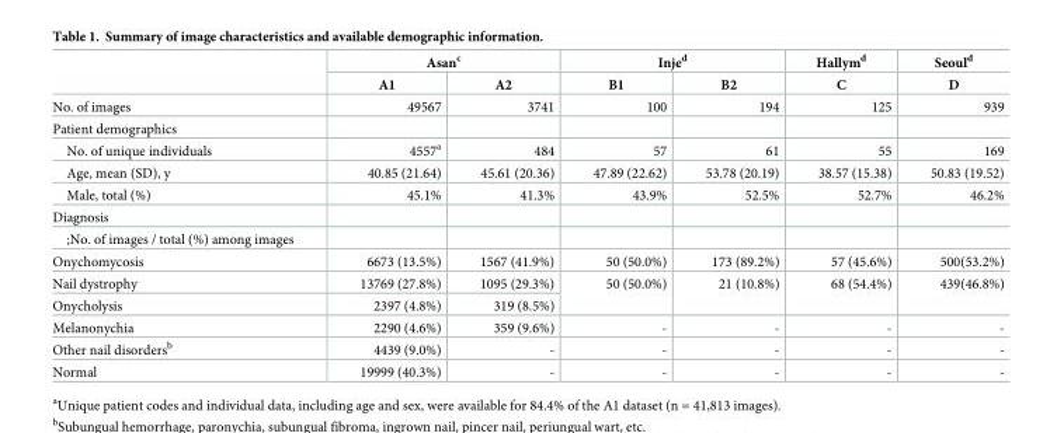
<table><thead><tr><td rowspan="2"></td><td colspan="2">Asan<sup>c</sup></td><td colspan="2">Inje<sup>d</sup></td><td rowspan="2">Hallym<sup>d</sup> C</td><td rowspan="2">Seoul<sup>d</sup> D</td></tr><tr><td>A1</td><td>A2</td><td>B1</td><td>B2</td></tr></thead><tbody><tr><td>No. of images</td><td>49567</td><td>3741</td><td>100</td><td>194</td><td>125</td><td>939</td></tr><tr><td colspan="7">Patient demographics</td></tr><tr><td>No. of unique individuals</td><td>4557<sup>a</sup></td><td>484</td><td>57</td><td>61</td><td>55</td><td>169</td></tr><tr><td>Age, mean (SD), y</td><td>40.85 (21.64)</td><td>45.61 (20.36)</td><td>47.89 (22.62)</td><td>53.78 (20.19)</td><td>38.57 (15.38)</td><td>50.83 (19.52)</td></tr><tr><td>Male, total (%)</td><td>45.1%</td><td>41.3%</td><td>43.9%</td><td>52.5%</td><td>52.7%</td><td>46.2%</td></tr><tr><td colspan="7">Diagnosis</td></tr><tr><td colspan="7">;No. of images / total (%) among images</td></tr><tr><td>Onychomycosis</td><td>6673 (13.5%)</td><td>1567 (41.9%)</td><td>50 (50.0%)</td><td>173 (89.2%)</td><td>57 (45.6%)</td><td>500(53.2%)</td></tr><tr><td>Nail dystrophy</td><td>13769 (27.8%)</td><td>1095 (29.3%)</td><td rowspan="2">50 (50.0%)</td><td rowspan="2">21 (10.8%)</td><td rowspan="2">68 (54.4%)</td><td rowspan="2">439(46.8%)</td></tr><tr><td>Onycholysis</td><td>2397 (4.8%)</td><td>319 (8.5%)</td></tr><tr><td>Melanonychia</td><td>2290 (4.6%)</td><td>359 (9.6%)</td><td>-</td><td>-</td><td>-</td><td>-</td></tr><tr><td>Other nail disorders<sup>b</sup></td><td>4439 (9.0%)</td><td>-</td><td>-</td><td>-</td><td>-</td><td>-</td></tr><tr><td>Normal</td><td>19999 (40.3%)</td><td>-</td><td>-</td><td>-</td><td>-</td><td>-</td></tr></tbody></table>